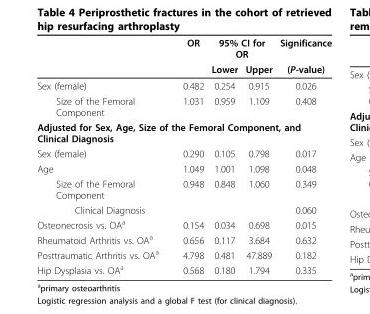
<table><thead><tr><td rowspan="2"></td><td rowspan="2">OR</td><td colspan="2">95% CI for OR</td><td rowspan="2">Significance (P-value)</td></tr><tr><td>Lower</td><td>Upper</td></tr></thead><tbody><tr><td>Sex (female)</td><td>0.482</td><td>0.254</td><td>0.915</td><td>0.026</td></tr><tr><td>Size of the Femoral Component</td><td>1.031</td><td>0.959</td><td>1.109</td><td>0.408</td></tr><tr><td colspan="5">Adjusted for Sex, Age, Size of the Femoral Component, and Clinical Diagnosis</td></tr><tr><td>Sex (female)</td><td>0.290</td><td>0.105</td><td>0.798</td><td>0.017</td></tr><tr><td>Age</td><td>1.049</td><td>1.001</td><td>1.098</td><td>0.048</td></tr><tr><td>Size of the Femoral Component</td><td>0.948</td><td>0.848</td><td>1.060</td><td>0.349</td></tr><tr><td>Clinical Diagnosis</td><td></td><td></td><td></td><td>0.060</td></tr><tr><td>Osteonecrosis vs. OA<sup>a</sup></td><td>0.154</td><td>0.034</td><td>0.698</td><td>0.015</td></tr><tr><td>Rheumatoid Arthritis vs. OA<sup>a</sup></td><td>0.656</td><td>0.117</td><td>3.684</td><td>0.632</td></tr><tr><td>Posttraumatic Arthritis vs. OA<sup>a</sup></td><td>4.798</td><td>0.481</td><td>47.889</td><td>0.182</td></tr><tr><td>Hip Dysplasia vs. OA<sup>a</sup></td><td>0.568</td><td>0.180</td><td>1.794</td><td>0.335</td></tr></tbody></table>